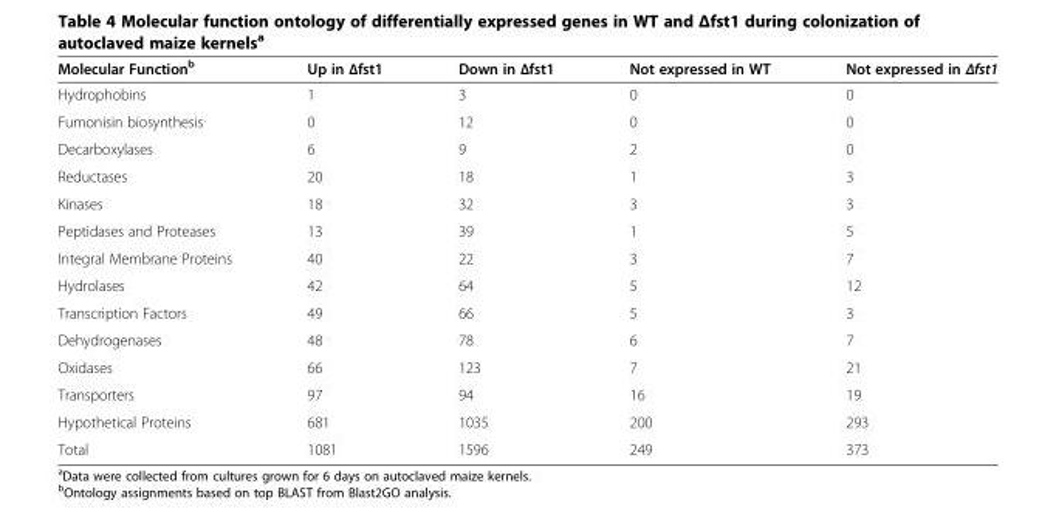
<table><thead><tr><td>Molecular Function<sup>b</sup></td><td>Up in Δfst1</td><td>Down in Δfst1</td><td>Not expressed in WT</td><td>Not expressed in Δfst1</td></tr></thead><tbody><tr><td>Hydrophobins</td><td>1</td><td>3</td><td>0</td><td>0</td></tr><tr><td>Fumonisin biosynthesis</td><td>0</td><td>12</td><td>0</td><td>0</td></tr><tr><td>Decarboxylases</td><td>6</td><td>9</td><td>2</td><td>0</td></tr><tr><td>Reductases</td><td>20</td><td>18</td><td>1</td><td>3</td></tr><tr><td>Kinases</td><td>18</td><td>32</td><td>3</td><td>3</td></tr><tr><td>Peptidases and Proteases</td><td>13</td><td>39</td><td>1</td><td>5</td></tr><tr><td>Integral Membrane Proteins</td><td>40</td><td>22</td><td>3</td><td>7</td></tr><tr><td>Hydrolases</td><td>42</td><td>64</td><td>5</td><td>12</td></tr><tr><td>Transcription Factors</td><td>49</td><td>66</td><td>5</td><td>3</td></tr><tr><td>Dehydrogenases</td><td>48</td><td>78</td><td>6</td><td>7</td></tr><tr><td>Oxidases</td><td>66</td><td>123</td><td>7</td><td>21</td></tr><tr><td>Transporters</td><td>97</td><td>94</td><td>16</td><td>19</td></tr><tr><td>Hypothetical Proteins</td><td>681</td><td>1035</td><td>200</td><td>293</td></tr><tr><td>Total</td><td>1081</td><td>1596</td><td>249</td><td>373</td></tr></tbody></table>